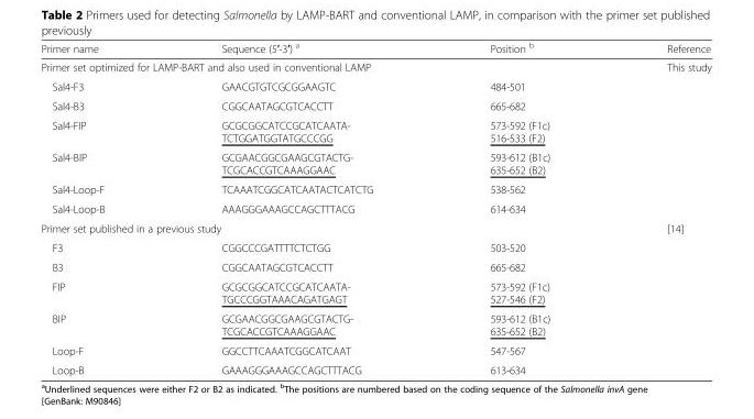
<table><thead><tr><td>Primer name</td><td>Sequence (5′-3′) <sup>a</sup></td><td>Position <sup>b</sup></td><td>Reference</td></tr></thead><tbody><tr><td colspan="3">Primer set optimized for LAMP-BART and also used in conventional LAMP</td><td>This study</td></tr><tr><td>Sal4-F3</td><td>GAACGTGTCGCGGAAGTC</td><td>484-501</td><td rowspan="6"></td></tr><tr><td>Sal4-B3</td><td>CGGCAATAGCGTCACCTT</td><td>665-682</td></tr><tr><td>Sal4-FIP</td><td>GCGCGGCATCCGCATCAATA- TCTGGATGGTATGCCCGG</td><td>573-592 (F1c) 516-533 (F2)</td></tr><tr><td>Sal4-BIP</td><td>GCGAACGGCGAAGCGTACTG- TCGCACCGTCAAAGGAAC</td><td>593-612 (B1c) 635-652 (B2)</td></tr><tr><td>Sal4-Loop-F</td><td>TCAAATCGGCATCAATACTCATCTG</td><td>538-562</td></tr><tr><td>Sal4-Loop-B</td><td>AAAGGGAAAGCCAGCTTTACG</td><td>614-634</td></tr><tr><td colspan="3">Primer set published in a previous study</td><td>[14]</td></tr><tr><td>F3</td><td>CGGCCCGATTTTCTCTGG</td><td>503-520</td><td></td></tr><tr><td>B3</td><td>CGGCAATAGCGTCACCTT</td><td>665-682</td><td></td></tr><tr><td>FIP</td><td>GCGCGGCATCCGCATCAATA- TGCCCGGTAAACAGATGAGT</td><td>573-592 (F1c) 527-546 (F2)</td><td></td></tr><tr><td>BIP</td><td>GCGAACGGCGAAGCGTACTG- TCGCACCGTCAAAGGAAC</td><td>593-612 (B1c) 635-652 (B2)</td><td></td></tr><tr><td>Loop-F</td><td>GGCCTTCAAATCGGCATCAAT</td><td>547-567</td><td></td></tr><tr><td>Loop-B</td><td>GAAAGGGAAAGCCAGCTTTACG</td><td>613-634</td><td></td></tr></tbody></table>